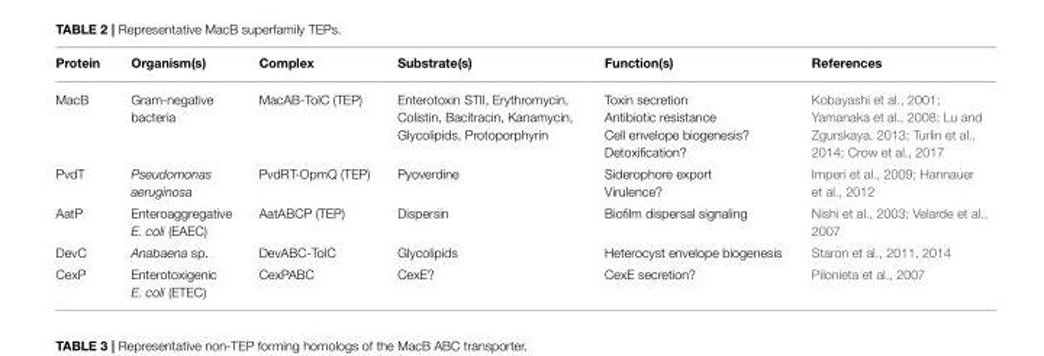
<table><thead><tr><td>Protein</td><td>Organism(s)</td><td>Complex</td><td>Substrate(s)</td><td>Function(s)</td><td>References</td></tr></thead><tbody><tr><td>MacB</td><td>Gram-negative bacteria</td><td>MacAB-TolC (TEP)</td><td>Enterotoxin STII, Erythromycin, Colistin, Bacitracin, Kanamycin, Glycolipids, Protoporphyrin</td><td>Toxin secretion Antibiotic resistance Cell envelope biogenesis? Detoxification?</td><td>Kobayashi et al., 2001; Yamanaka et al., 2008; Lu and Zgurskaya, 2013; Turlin et al., 2014; Crow et al., 2017</td></tr><tr><td>PvdT</td><td>Pseudomonas aeruginosa</td><td>PvdRT-OpmQ (TEP)</td><td>Pyoverdine</td><td>Siderophore export Virulence?</td><td>Imperi et al., 2009; Hannauer et al., 2012</td></tr><tr><td>AatP</td><td>Enteroaggregative E. coli (EAEC)</td><td>AatABCP (TEP)</td><td>Dispersin</td><td>Biofilm dispersal signaling</td><td>Nishi et al., 2003; Velarde et al., 2007</td></tr><tr><td>DevC</td><td>Anabaena sp.</td><td>DevABC-TolC</td><td>Glycolipids</td><td>Heterocyst envelope biogenesis</td><td>Staron et al., 2011, 2014</td></tr><tr><td>CexP</td><td>Enterotoxigenic E. coli (ETEC)</td><td>CexPABC</td><td>CexE?</td><td>CexE secretion?</td><td>Pilonieta et al., 2007</td></tr></tbody></table>